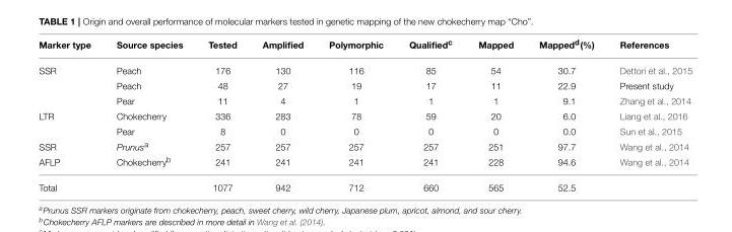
<table><thead><tr><td>Marker type</td><td>Source species</td><td>Tested</td><td>Amplified</td><td>Polymorphic</td><td>Qualified<sup>c</sup></td><td>Mapped</td><td>Mapped<sup>d</sup>(%)</td><td>References</td></tr></thead><tbody><tr><td rowspan="3">SSR</td><td>Peach</td><td>176</td><td>130</td><td>116</td><td>85</td><td>54</td><td>30.7</td><td>Dettori et al., 2015</td></tr><tr><td>Peach</td><td>48</td><td>27</td><td>19</td><td>17</td><td>11</td><td>22.9</td><td>Present study</td></tr><tr><td>Pear</td><td>11</td><td>4</td><td>1</td><td>1</td><td>1</td><td>9.1</td><td>Zhang et al., 2014</td></tr><tr><td rowspan="2">LTR</td><td>Chokecherry</td><td>336</td><td>283</td><td>78</td><td>59</td><td>20</td><td>6.0</td><td>Liang et al., 2016</td></tr><tr><td>Pear</td><td>8</td><td>0</td><td>0</td><td>0</td><td>0</td><td>0.0</td><td>Sun et al., 2015</td></tr><tr><td>SSR</td><td>Prunus<sup>a</sup></td><td>257</td><td>257</td><td>257</td><td>257</td><td>251</td><td>97.7</td><td>Wang et al., 2014</td></tr><tr><td>AFLP</td><td>Chokecherry<sup>b</sup></td><td>241</td><td>241</td><td>241</td><td>241</td><td>228</td><td>94.6</td><td>Wang et al., 2014</td></tr><tr><td>Total</td><td></td><td>1077</td><td>942</td><td>712</td><td>660</td><td>565</td><td>52.5</td><td></td></tr></tbody></table>